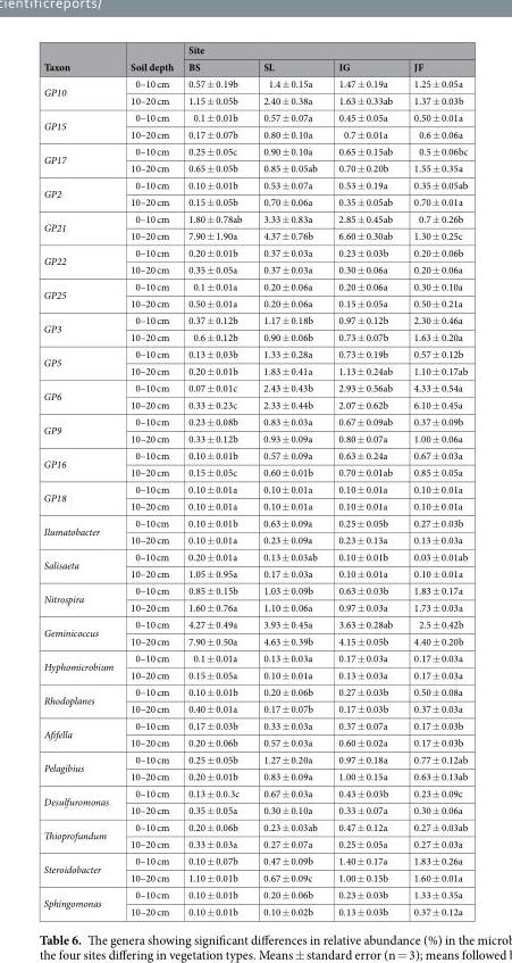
<table><thead><tr><td rowspan="2">Taxon</td><td rowspan="2">Soil depth</td><td colspan="4">Site</td></tr><tr><td>BS</td><td>SL</td><td>IG</td><td>JF</td></tr></thead><tbody><tr><td rowspan="2">GP10</td><td>0–10 cm</td><td>0.57 ± 0.19b</td><td>1.4 ± 0.15a</td><td>1.47 ± 0.19a</td><td>1.25 ± 0.05a</td></tr><tr><td>10–20 cm</td><td>1.15 ± 0.05b</td><td>2.40 ± 0.38a</td><td>1.63 ± 0.33ab</td><td>1.37 ± 0.03b</td></tr><tr><td rowspan="2">GP15</td><td>0–10 cm</td><td>0.1 ± 0.01b</td><td>0.57 ± 0.07a</td><td>0.45 ± 0.05a</td><td>0.50 ± 0.01a</td></tr><tr><td>10–20 cm</td><td>0.17 ± 0.07b</td><td>0.80 ± 0.10a</td><td>0.7 ± 0.01a</td><td>0.6 ± 0.06a</td></tr><tr><td rowspan="2">GP17</td><td>0–10 cm</td><td>0.25 ± 0.05c</td><td>0.90 ± 0.10a</td><td>0.65 ± 0.15ab</td><td>0.5 ± 0.06bc</td></tr><tr><td>10–20 cm</td><td>0.65 ± 0.05b</td><td>0.85 ± 0.05ab</td><td>0.70 ± 0.20b</td><td>1.55 ± 0.35a</td></tr><tr><td rowspan="2">GP2</td><td>0–10 cm</td><td>0.10 ± 0.01b</td><td>0.53 ± 0.07a</td><td>0.53 ± 0.19a</td><td>0.35 ± 0.05ab</td></tr><tr><td>10–20 cm</td><td>0.15 ± 0.05b</td><td>0.70 ± 0.06a</td><td>0.35 ± 0.05ab</td><td>0.70 ± 0.01a</td></tr><tr><td rowspan="2">GP21</td><td>0–10 cm</td><td>1.80 ± 0.78ab</td><td>3.33 ± 0.83a</td><td>2.85 ± 0.45ab</td><td>0.7 ± 0.26b</td></tr><tr><td>10–20 cm</td><td>7.90 ± 1.90a</td><td>4.37 ± 0.76b</td><td>6.60 ± 0.30ab</td><td>1.30 ± 0.25c</td></tr><tr><td rowspan="2">GP22</td><td>0–10 cm</td><td>0.20 ± 0.01b</td><td>0.37 ± 0.03a</td><td>0.23 ± 0.03b</td><td>0.20 ± 0.06b</td></tr><tr><td>10–20 cm</td><td>0.35 ± 0.05a</td><td>0.37 ± 0.03a</td><td>0.30 ± 0.06a</td><td>0.20 ± 0.06a</td></tr><tr><td rowspan="2">GP25</td><td>0–10 cm</td><td>0.1 ± 0.01a</td><td>0.20 ± 0.06a</td><td>0.20 ± 0.06a</td><td>0.30 ± 0.10a</td></tr><tr><td>10–20 cm</td><td>0.50 ± 0.01a</td><td>0.20 ± 0.06a</td><td>0.15 ± 0.05a</td><td>0.50 ± 0.21a</td></tr><tr><td rowspan="2">GP3</td><td>0–10 cm</td><td>0.37 ± 0.12b</td><td>1.17 ± 0.18b</td><td>0.97 ± 0.12b</td><td>2.30 ± 0.46a</td></tr><tr><td>10–20 cm</td><td>0.6 ± 0.12b</td><td>0.90 ± 0.06b</td><td>0.73 ± 0.07b</td><td>1.63 ± 0.20a</td></tr><tr><td rowspan="2">GP5</td><td>0–10 cm</td><td>0.13 ± 0.03b</td><td>1.33 ± 0.28a</td><td>0.73 ± 0.19b</td><td>0.57 ± 0.12b</td></tr><tr><td>10–20 cm</td><td>0.20 ± 0.01b</td><td>1.83 ± 0.41a</td><td>1.13 ± 0.24ab</td><td>1.10 ± 0.17ab</td></tr><tr><td rowspan="2">GP6</td><td>0–10 cm</td><td>0.07 ± 0.01c</td><td>2.43 ± 0.43b</td><td>2.93 ± 0.56ab</td><td>4.33 ± 0.54a</td></tr><tr><td>10–20 cm</td><td>0.33 ± 0.23c</td><td>2.33 ± 0.44b</td><td>2.07 ± 0.62b</td><td>6.10 ± 0.45a</td></tr><tr><td rowspan="2">GP9</td><td>0–10 cm</td><td>0.23 ± 0.08b</td><td>0.83 ± 0.03a</td><td>0.67 ± 0.09ab</td><td>0.37 ± 0.09b</td></tr><tr><td>10–20 cm</td><td>0.33 ± 0.12b</td><td>0.93 ± 0.09a</td><td>0.80 ± 0.07a</td><td>1.00 ± 0.06a</td></tr><tr><td rowspan="2">GP16</td><td>0–10 cm</td><td>0.10 ± 0.01b</td><td>0.57 ± 0.09a</td><td>0.63 ± 0.24a</td><td>0.67 ± 0.03a</td></tr><tr><td>10–20 cm</td><td>0.15 ± 0.05c</td><td>0.60 ± 0.01b</td><td>0.70 ± 0.01ab</td><td>0.85 ± 0.05a</td></tr><tr><td rowspan="2">GP18</td><td>0–10 cm</td><td>0.10 ± 0.01a</td><td>0.10 ± 0.01a</td><td>0.10 ± 0.01a</td><td>0.10 ± 0.01a</td></tr><tr><td>10–20 cm</td><td>0.10 ± 0.01a</td><td>0.10 ± 0.01a</td><td>0.10 ± 0.01a</td><td>0.10 ± 0.01a</td></tr><tr><td rowspan="2">Ilumatobacter</td><td>0–10 cm</td><td>0.10 ± 0.01b</td><td>0.63 ± 0.09a</td><td>0.25 ± 0.05b</td><td>0.27 ± 0.03b</td></tr><tr><td>10–20 cm</td><td>0.10 ± 0.01a</td><td>0.23 ± 0.09a</td><td>0.23 ± 0.13a</td><td>0.13 ± 0.03a</td></tr><tr><td rowspan="2">Salisaeta</td><td>0–10 cm</td><td>0.20 ± 0.01a</td><td>0.13 ± 0.03ab</td><td>0.10 ± 0.01b</td><td>0.03 ± 0.01ab</td></tr><tr><td>10–20 cm</td><td>1.05 ± 0.95a</td><td>0.17 ± 0.03a</td><td>0.10 ± 0.01a</td><td>0.10 ± 0.01a</td></tr><tr><td rowspan="2">Nitrospira</td><td>0–10 cm</td><td>0.85 ± 0.15b</td><td>1.03 ± 0.09b</td><td>0.63 ± 0.03b</td><td>1.83 ± 0.17a</td></tr><tr><td>10–20 cm</td><td>1.60 ± 0.76a</td><td>1.10 ± 0.06a</td><td>0.97 ± 0.03a</td><td>1.73 ± 0.03a</td></tr><tr><td rowspan="2">Geminicoccus</td><td>0–10 cm</td><td>4.27 ± 0.49a</td><td>3.93 ± 0.45a</td><td>3.63 ± 0.28ab</td><td>2.5 ± 0.42b</td></tr><tr><td>10–20 cm</td><td>7.90 ± 0.50a</td><td>4.63 ± 0.39b</td><td>4.15 ± 0.05b</td><td>4.40 ± 0.20b</td></tr><tr><td rowspan="2">Hyphomicrobium</td><td>0–10 cm</td><td>0.1 ± 0.01a</td><td>0.13 ± 0.03a</td><td>0.17 ± 0.03a</td><td>0.17 ± 0.03a</td></tr><tr><td>10–20 cm</td><td>0.15 ± 0.05a</td><td>0.10 ± 0.01a</td><td>0.13 ± 0.03a</td><td>0.17 ± 0.03a</td></tr><tr><td rowspan="2">Rhodoplanes</td><td>0–10 cm</td><td>0.10 ± 0.01b</td><td>0.20 ± 0.06b</td><td>0.27 ± 0.03b</td><td>0.50 ± 0.08a</td></tr><tr><td>10–20 cm</td><td>0.40 ± 0.01a</td><td>0.17 ± 0.07b</td><td>0.17 ± 0.03b</td><td>0.37 ± 0.03a</td></tr><tr><td rowspan="2">Afifella</td><td>0–10 cm</td><td>0.17 ± 0.03b</td><td>0.33 ± 0.03a</td><td>0.37 ± 0.07a</td><td>0.17 ± 0.03b</td></tr><tr><td>10–20 cm</td><td>0.20 ± 0.06b</td><td>0.57 ± 0.03a</td><td>0.60 ± 0.02a</td><td>0.17 ± 0.03b</td></tr><tr><td rowspan="2">Pelagibius</td><td>0–10 cm</td><td>0.25 ± 0.05b</td><td>1.27 ± 0.20a</td><td>0.97 ± 0.18a</td><td>0.77 ± 0.12ab</td></tr><tr><td>10–20 cm</td><td>0.20 ± 0.01b</td><td>0.83 ± 0.09a</td><td>1.00 ± 0.15a</td><td>0.63 ± 0.13ab</td></tr><tr><td rowspan="2">Desulfuromonas</td><td>0–10 cm</td><td>0.13 ± 0.0.3c</td><td>0.67 ± 0.03a</td><td>0.43 ± 0.03b</td><td>0.23 ± 0.09c</td></tr><tr><td>10–20 cm</td><td>0.35 ± 0.05a</td><td>0.30 ± 0.10a</td><td>0.33 ± 0.07a</td><td>0.30 ± 0.06a</td></tr><tr><td rowspan="2">Thioprofundum</td><td>0–10 cm</td><td>0.20 ± 0.06b</td><td>0.23 ± 0.03ab</td><td>0.47 ± 0.12a</td><td>0.27 ± 0.03ab</td></tr><tr><td>10–20 cm</td><td>0.33 ± 0.03a</td><td>0.27 ± 0.07a</td><td>0.25 ± 0.05a</td><td>0.27 ± 0.03a</td></tr><tr><td rowspan="2">Steroidobacter</td><td>0–10 cm</td><td>0.10 ± 0.07b</td><td>0.47 ± 0.09b</td><td>1.40 ± 0.17a</td><td>1.83 ± 0.26a</td></tr><tr><td>10–20 cm</td><td>1.10 ± 0.01b</td><td>0.67 ± 0.09c</td><td>1.00 ± 0.15b</td><td>1.60 ± 0.01a</td></tr><tr><td rowspan="2">Sphingomonas</td><td>0–10 cm</td><td>0.10 ± 0.01b</td><td>0.20 ± 0.06b</td><td>0.23 ± 0.03b</td><td>1.33 ± 0.35a</td></tr><tr><td>10–20 cm</td><td>0.10 ± 0.01b</td><td>0.10 ± 0.02b</td><td>0.13 ± 0.03b</td><td>0.37 ± 0.12a</td></tr></tbody></table>